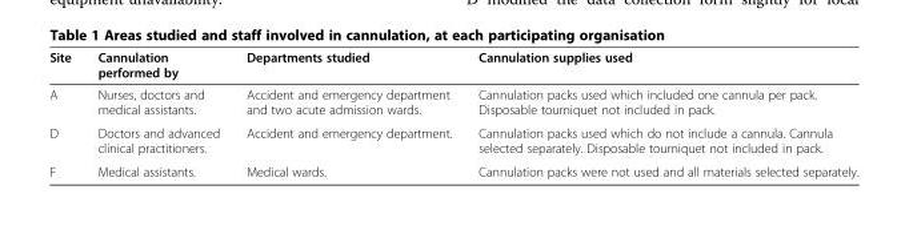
<table><thead><tr><td>Site</td><td>Cannulation performed by</td><td>Departments studied</td><td>Cannulation supplies used</td></tr></thead><tbody><tr><td>A</td><td>Nurses, doctors and medical assistants.</td><td>Accident and emergency department and two acute admission wards.</td><td>Cannulation packs used which included one cannula per pack. Disposable tourniquet not included in pack.</td></tr><tr><td>D</td><td>Doctors and advanced clinical practitioners.</td><td>Accident and emergency department.</td><td>Cannulation packs used which do not include a cannula. Cannula selected separately. Disposable tourniquet not included in pack.</td></tr><tr><td>F</td><td>Medical assistants.</td><td>Medical wards.</td><td>Cannulation packs were not used and all materials selected separately.</td></tr></tbody></table>